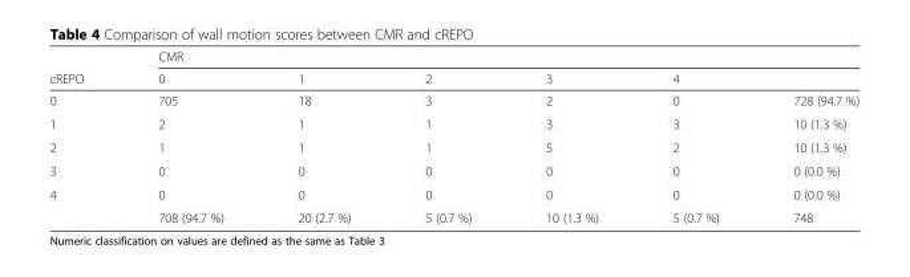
<table><thead><tr><td rowspan="2">cREPO</td><td colspan="6">CMR</td></tr><tr><td>0</td><td>1</td><td>2</td><td>3</td><td>4</td><td></td></tr></thead><tbody><tr><td>0</td><td>705</td><td>18</td><td>3</td><td>2</td><td>0</td><td>728 (94.7 %)</td></tr><tr><td>1</td><td>2</td><td>1</td><td>1</td><td>3</td><td>3</td><td>10 (1.3 %)</td></tr><tr><td>2</td><td>1</td><td>1</td><td>1</td><td>5</td><td>2</td><td>10 (1.3 %)</td></tr><tr><td>3</td><td>0</td><td>0</td><td>0</td><td>0</td><td>0</td><td>0 (0.0 %)</td></tr><tr><td rowspan="2">4</td><td>0</td><td>0</td><td>0</td><td>0</td><td>0</td><td>0 (0.0 %)</td></tr><tr><td>708 (94.7 %)</td><td>20 (2.7 %)</td><td>5 (0.7 %)</td><td>10 (1.3 %)</td><td>5 (0.7 %)</td><td>748</td></tr></tbody></table>